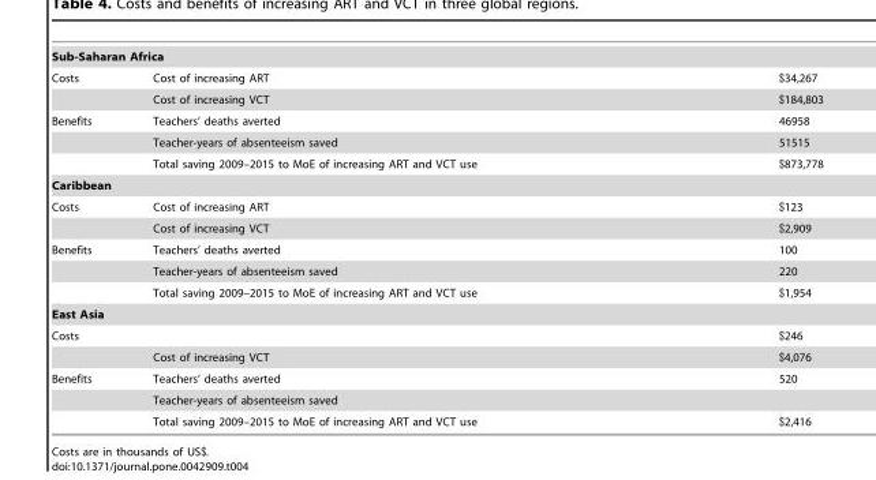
<table><tbody><tr><td colspan="3">Sub-Saharan Africa</td></tr><tr><td rowspan="2">Costs</td><td>Cost of increasing ART</td><td>$34,267</td></tr><tr><td>Cost of increasing VCT</td><td>$184,803</td></tr><tr><td rowspan="3">Benefits</td><td>Teachers’ deaths averted</td><td>46958</td></tr><tr><td>Teacher-years of absenteeism saved</td><td>51515</td></tr><tr><td>Total saving 2009–2015 to MoE of increasing ART and VCT use</td><td>$873,778</td></tr><tr><td colspan="3">Caribbean</td></tr><tr><td rowspan="2">Costs</td><td>Cost of increasing ART</td><td>$123</td></tr><tr><td>Cost of increasing VCT</td><td>$2,909</td></tr><tr><td rowspan="3">Benefits</td><td>Teachers’ deaths averted</td><td>100</td></tr><tr><td>Teacher-years of absenteeism saved</td><td>220</td></tr><tr><td>Total saving 2009–2015 to MoE of increasing ART and VCT use</td><td>$1,954</td></tr><tr><td colspan="3">East Asia</td></tr><tr><td rowspan="2">Costs</td><td></td><td>$246</td></tr><tr><td>Cost of increasing VCT</td><td>$4,076</td></tr><tr><td rowspan="3">Benefits</td><td>Teachers’ deaths averted</td><td>520</td></tr><tr><td>Teacher-years of absenteeism saved</td><td></td></tr><tr><td>Total saving 2009–2015 to MoE of increasing ART and VCT use</td><td>$2,416</td></tr></tbody></table>